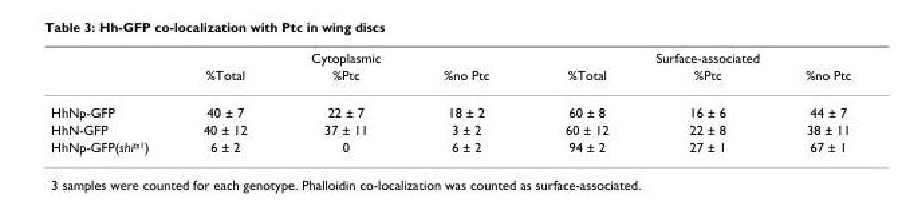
<table><thead><tr><td rowspan="2"></td><td colspan="3">Cytoplasmic</td><td colspan="3">Surface-associated</td></tr><tr><td>%Total</td><td>%Ptc</td><td>%no Ptc</td><td>%Total</td><td>%Ptc</td><td>%no Ptc</td></tr></thead><tbody><tr><td>HhNp-GFP</td><td>40 ± 7</td><td>22 ± 7</td><td>18 ± 2</td><td>60 ± 8</td><td>16 ± 6</td><td>44 ± 7</td></tr><tr><td>HhN-GFP</td><td>40 ± 12</td><td>37 ± 11</td><td>3 ± 2</td><td>60 ± 12</td><td>22 ± 8</td><td>38 ± 11</td></tr><tr><td>HhNp-GFP(shi<sup>ts1</sup>)</td><td>6 ± 2</td><td>0</td><td>6 ± 2</td><td>94 ± 2</td><td>27 ± 1</td><td>67 ± 1</td></tr></tbody></table>